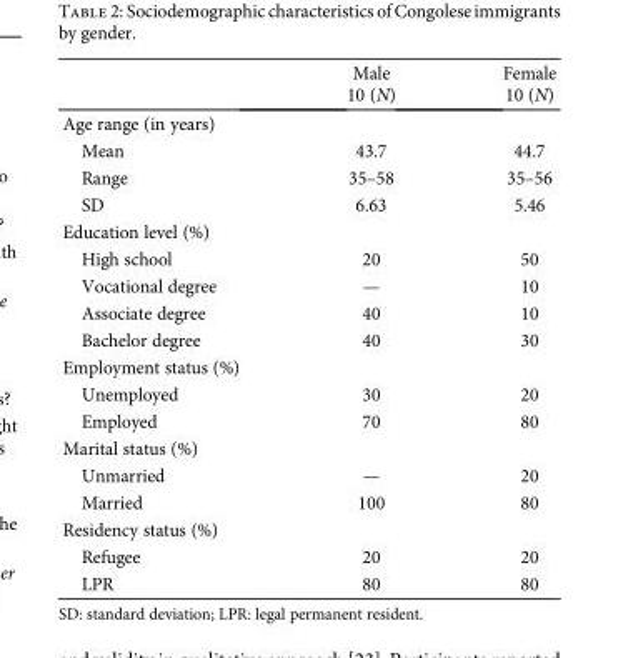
<table><thead><tr><td rowspan="2"></td><td rowspan="2">Male 10 (N)</td><td rowspan="2">Female 10 (N)</td></tr><tr></tr></thead><tbody><tr><td colspan="3">Age range (in years)</td></tr><tr><td>Mean</td><td>43.7</td><td>44.7</td></tr><tr><td>Range</td><td>35–58</td><td>35–56</td></tr><tr><td>SD</td><td>6.63</td><td>5.46</td></tr><tr><td colspan="3">Education level (%)</td></tr><tr><td>High school</td><td>20</td><td>50</td></tr><tr><td>Vocational degree</td><td>—</td><td>10</td></tr><tr><td>Associate degree</td><td>40</td><td>10</td></tr><tr><td>Bachelor degree</td><td>40</td><td>30</td></tr><tr><td colspan="3">Employment status (%)</td></tr><tr><td>Unemployed</td><td>30</td><td>20</td></tr><tr><td>Employed</td><td>70</td><td>80</td></tr><tr><td colspan="3">Marital status (%)</td></tr><tr><td>Unmarried</td><td>—</td><td>20</td></tr><tr><td>Married</td><td>100</td><td>80</td></tr><tr><td colspan="3">Residency status (%)</td></tr><tr><td>Refugee</td><td>20</td><td>20</td></tr><tr><td>LPR</td><td>80</td><td>80</td></tr></tbody></table>